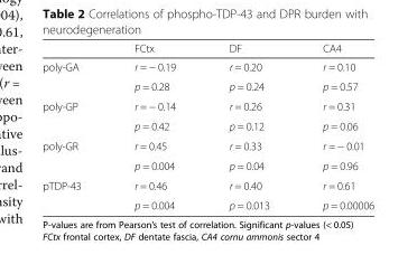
<table><thead><tr><td></td><td>FCtx</td><td>DF</td><td>CA4</td></tr></thead><tbody><tr><td rowspan="2">poly-GA</td><td>r = − 0.19</td><td>r = 0.20</td><td>r = 0.10</td></tr><tr><td>p = 0.28</td><td>p = 0.24</td><td>p = 0.57</td></tr><tr><td rowspan="2">poly-GP</td><td>r = − 0.14</td><td>r = 0.26</td><td>r = 0.31</td></tr><tr><td>p = 0.42</td><td>p = 0.12</td><td>p = 0.06</td></tr><tr><td rowspan="2">poly-GR</td><td>r = 0.45</td><td>r = 0.33</td><td>r = − 0.01</td></tr><tr><td>p = 0.004</td><td>p = 0.04</td><td>p = 0.96</td></tr><tr><td rowspan="2">pTDP-43</td><td>r = 0.46</td><td>r = 0.40</td><td>r = 0.61</td></tr><tr><td>p = 0.004</td><td>p = 0.013</td><td>p = 0.00006</td></tr></tbody></table>